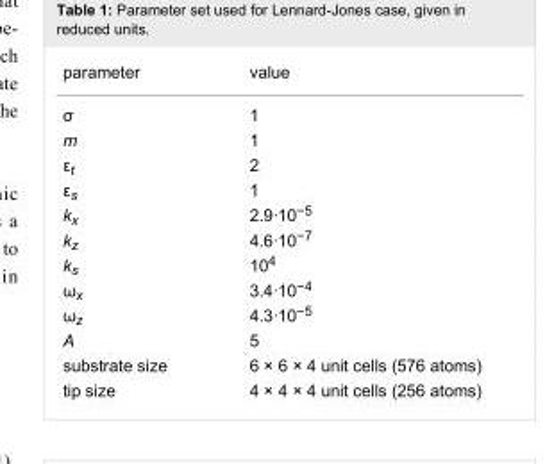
<table><tbody><tr><td>parameter</td><td>value</td></tr><tr><td>σ</td><td>1</td></tr><tr><td>m</td><td>1</td></tr><tr><td>ε<sub>t</sub></td><td>2</td></tr><tr><td>ε<sub>s</sub></td><td>1</td></tr><tr><td>k<sub>x</sub></td><td>2.9·10<sup>−5</sup></td></tr><tr><td>k<sub>z</sub></td><td>4.6·10<sup>−7</sup></td></tr><tr><td>k<sub>s</sub></td><td>10<sup>4</sup></td></tr><tr><td>ω<sub>x</sub></td><td>3.4·10<sup>−4</sup></td></tr><tr><td>ω<sub>z</sub></td><td>4.3·10<sup>−5</sup></td></tr><tr><td>A</td><td>5</td></tr><tr><td>substrate size</td><td>6 × 6 × 4 unit cells (576 atoms)</td></tr><tr><td>tip size</td><td>4 × 4 × 4 unit cells (256 atoms)</td></tr></tbody></table>